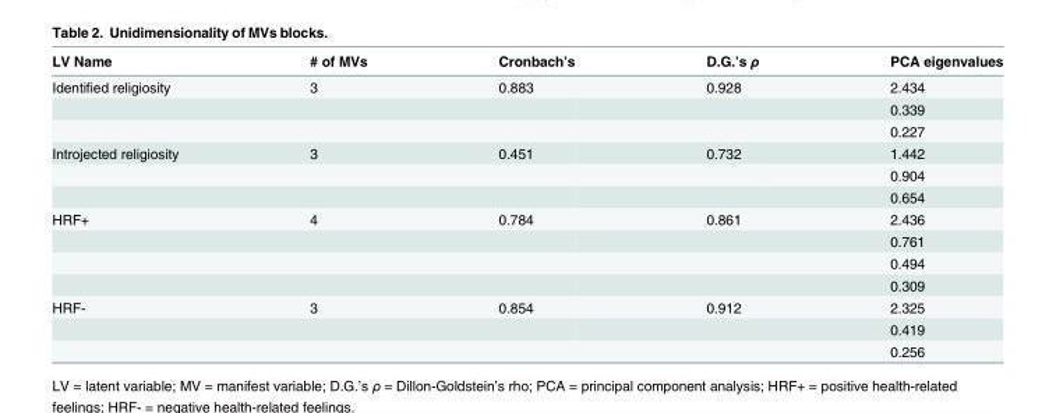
<table><thead><tr><td>LV Name</td><td># of MVs</td><td>Cronbach’s</td><td>D.G.’s ρ</td><td>PCA eigenvalues</td></tr></thead><tbody><tr><td rowspan="3">Identified religiosity</td><td>3</td><td>0.883</td><td>0.928</td><td>2.434</td></tr><tr><td></td><td></td><td></td><td>0.339</td></tr><tr><td></td><td></td><td></td><td>0.227</td></tr><tr><td rowspan="3">Introjected religiosity</td><td>3</td><td>0.451</td><td>0.732</td><td>1.442</td></tr><tr><td></td><td></td><td></td><td>0.904</td></tr><tr><td></td><td></td><td></td><td>0.654</td></tr><tr><td rowspan="4">HRF+</td><td>4</td><td>0.784</td><td>0.861</td><td>2.436</td></tr><tr><td></td><td></td><td></td><td>0.761</td></tr><tr><td></td><td></td><td></td><td>0.494</td></tr><tr><td></td><td></td><td></td><td>0.309</td></tr><tr><td rowspan="3">HRF-</td><td>3</td><td>0.854</td><td>0.912</td><td>2.325</td></tr><tr><td></td><td></td><td></td><td>0.419</td></tr><tr><td></td><td></td><td></td><td>0.256</td></tr></tbody></table>